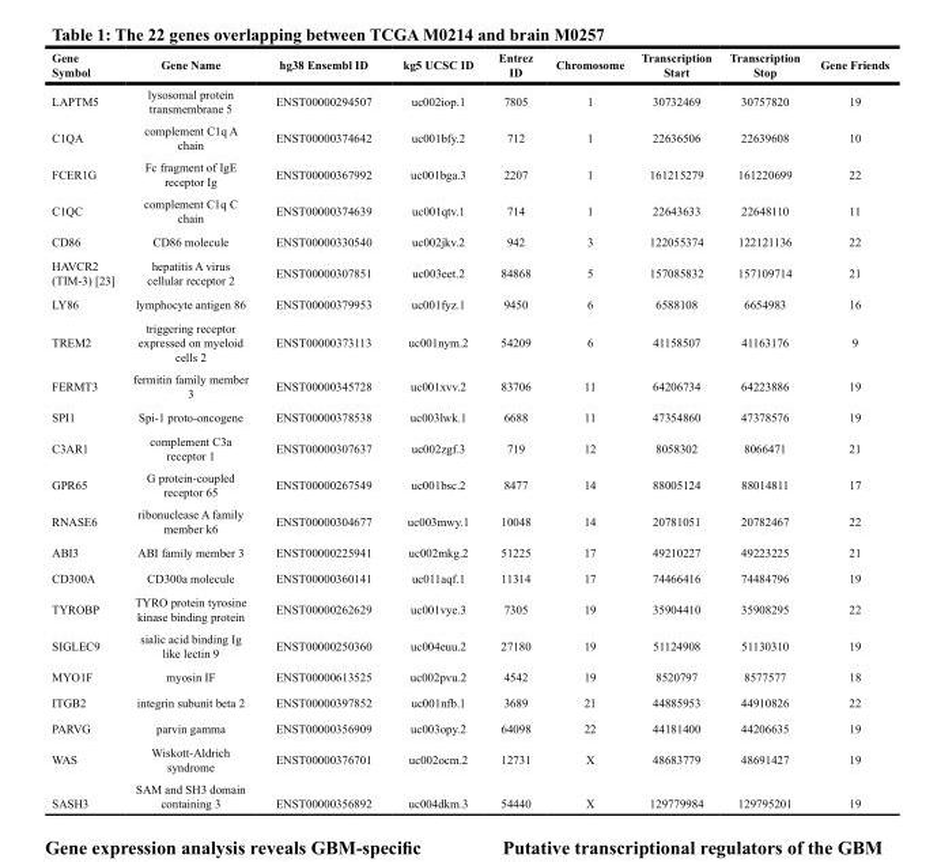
<table><thead><tr><td>Gene Symbol</td><td>Gene Name</td><td>hg38 Ensembl ID</td><td>kg5 UCSC ID</td><td>Entrez ID</td><td>Chromosome</td><td>Transcription Start</td><td>Transcription Stop</td><td>Gene Friends</td></tr></thead><tbody><tr><td>LAPTM5</td><td>lysosomal protein transmembrane 5</td><td>ENST00000294507</td><td>uc002iop.1</td><td>7805</td><td>1</td><td>30732469</td><td>30757820</td><td>19</td></tr><tr><td>C1QA</td><td>complement C1q A chain</td><td>ENST00000374642</td><td>uc001bfy.2</td><td>712</td><td>1</td><td>22636506</td><td>22639608</td><td>10</td></tr><tr><td>FCER1G</td><td>Fc fragment of IgE receptor Ig</td><td>ENST00000367992</td><td>uc001bga.3</td><td>2207</td><td>1</td><td>161215279</td><td>161220699</td><td>22</td></tr><tr><td>C1QC</td><td>complement C1q C chain</td><td>ENST00000374639</td><td>uc001qtv.1</td><td>714</td><td>1</td><td>22643633</td><td>22648110</td><td>11</td></tr><tr><td>CD86</td><td>CD86 molecule</td><td>ENST00000330540</td><td>uc002jkv.2</td><td>942</td><td>3</td><td>122055374</td><td>122121136</td><td>22</td></tr><tr><td>HAVCR2 (TIM-3) [23]</td><td>hepatitis A virus cellular receptor 2</td><td>ENST00000307851</td><td>uc003eet.2</td><td>84868</td><td>5</td><td>157085832</td><td>157109714</td><td>21</td></tr><tr><td>LY86</td><td>lymphocyte antigen 86</td><td>ENST00000379953</td><td>uc001fyz.1</td><td>9450</td><td>6</td><td>6588108</td><td>6654983</td><td>16</td></tr><tr><td>TREM2</td><td>triggering receptor expressed on myeloid cells 2</td><td>ENST00000373113</td><td>uc001nym.2</td><td>54209</td><td>6</td><td>41158507</td><td>41163176</td><td>9</td></tr><tr><td>FERMT3</td><td>fermitin family member 3</td><td>ENST00000345728</td><td>uc001xvv.2</td><td>83706</td><td>11</td><td>64206734</td><td>64223886</td><td>19</td></tr><tr><td>SPI1</td><td>Spi-1 proto-oncogene</td><td>ENST00000378538</td><td>uc003lwk.1</td><td>6688</td><td>11</td><td>47354860</td><td>47378576</td><td>19</td></tr><tr><td>C3AR1</td><td>complement C3a receptor 1</td><td>ENST00000307637</td><td>uc002zgf.3</td><td>719</td><td>12</td><td>8058302</td><td>8066471</td><td>21</td></tr><tr><td>GPR65</td><td>G protein-coupled receptor 65</td><td>ENST00000267549</td><td>uc001bsc.2</td><td>8477</td><td>14</td><td>88005124</td><td>88014811</td><td>17</td></tr><tr><td>RNASE6</td><td>ribonuclease A family member k6</td><td>ENST00000304677</td><td>uc003mwy.1</td><td>10048</td><td>14</td><td>20781051</td><td>20782467</td><td>22</td></tr><tr><td>ABI3</td><td>ABI family member 3</td><td>ENST00000225941</td><td>uc002mkg.2</td><td>51225</td><td>17</td><td>49210227</td><td>49223225</td><td>21</td></tr><tr><td>CD300A</td><td>CD300a molecule</td><td>ENST00000360141</td><td>uc011aqf.1</td><td>11314</td><td>17</td><td>74466416</td><td>74484796</td><td>19</td></tr><tr><td>TYROBP</td><td>TYRO protein tyrosine kinase binding protein</td><td>ENST00000262629</td><td>uc001vye.3</td><td>7305</td><td>19</td><td>35904410</td><td>35908295</td><td>22</td></tr><tr><td>SIGLEC9</td><td>sialic acid binding Ig like lectin 9</td><td>ENST00000250360</td><td>uc004euu.2</td><td>27180</td><td>19</td><td>51124908</td><td>51130310</td><td>19</td></tr><tr><td>MYO1F</td><td>myosin IF</td><td>ENST00000613525</td><td>uc002pvu.2</td><td>4542</td><td>19</td><td>8520797</td><td>8577577</td><td>18</td></tr><tr><td>ITGB2</td><td>integrin subunit beta 2</td><td>ENST00000397852</td><td>uc001nfb.1</td><td>3689</td><td>21</td><td>44885953</td><td>44910826</td><td>22</td></tr><tr><td>PARVG</td><td>parvin gamma</td><td>ENST00000356909</td><td>uc003opy.2</td><td>64098</td><td>22</td><td>44181400</td><td>44206635</td><td>19</td></tr><tr><td>WAS</td><td>Wiskott-Aldrich syndrome</td><td>ENST00000376701</td><td>uc002ocm.2</td><td>12731</td><td>X</td><td>48683779</td><td>48691427</td><td>19</td></tr><tr><td>SASH3</td><td>SAM and SH3 domain containing 3</td><td>ENST00000356892</td><td>uc004dkm.3</td><td>54440</td><td>X</td><td>129779984</td><td>129795201</td><td>19</td></tr></tbody></table>